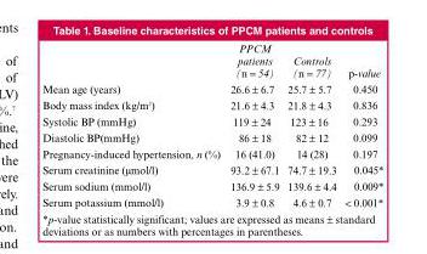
<table><thead><tr><td></td><td>PPCM patients (n = 54)</td><td>Controls (n = 77)</td><td>p-value</td></tr></thead><tbody><tr><td>Mean age (years)</td><td>26.6 ± 6.7</td><td>25.7 ± 5.7</td><td>0.450</td></tr><tr><td>Body mass index (kg/m<sup>2</sup>)</td><td>21.6 ± 4.3</td><td>21.8 ± 4.3</td><td>0.836</td></tr><tr><td>Systolic BP (mmHg)</td><td>119 ± 24</td><td>123 ± 16</td><td>0.293</td></tr><tr><td>Diastolic BP(mmHg)</td><td>86 ± 18</td><td>82 ± 12</td><td>0.099</td></tr><tr><td>Pregnancy-induced hypertension, n (%)</td><td>16 (41.0)</td><td>14 (28)</td><td>0.197</td></tr><tr><td>Serum creatinine (µmol/l)</td><td>93.2 ± 67.1</td><td>74.7 ± 19.3</td><td>0.045*</td></tr><tr><td>Serum sodium (mmol/l)</td><td>136.9 ± 5.9</td><td>139.6 ± 4.4</td><td>0.009*</td></tr><tr><td>Serum potassium (mmol/l)</td><td>3.9 ± 0.8</td><td>4.6 ± 0.7</td><td>&lt; 0.001*</td></tr></tbody></table>